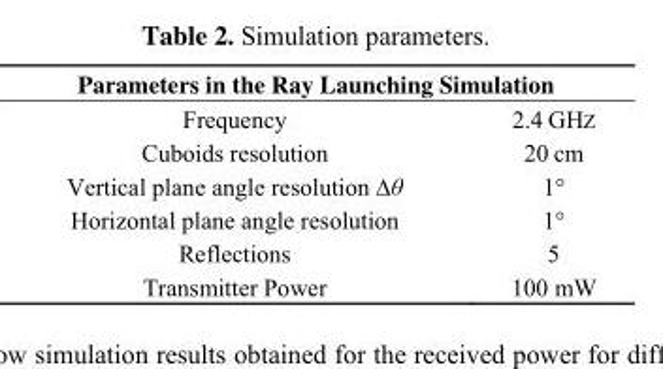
<table><thead><tr><td colspan="2">Parameters in the Ray Launching Simulation</td></tr><tr><td>Frequency</td><td>2.4 GHZ</td></tr></thead><tbody><tr><td>Cuboids resolution</td><td>20 cm</td></tr><tr><td>Vertical plane angle resolution ∆θ</td><td>1°</td></tr><tr><td>Horizontal plane angle resolution</td><td>1°</td></tr><tr><td>Reflections</td><td>5</td></tr><tr><td>Transmitter Power</td><td>100 mW</td></tr></tbody></table>